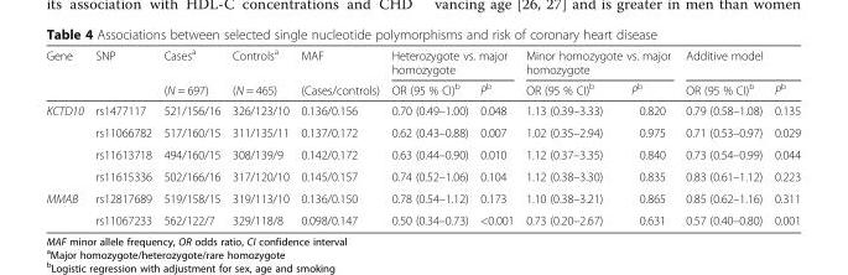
<table><thead><tr><td rowspan="2">Gene</td><td rowspan="2">SNP</td><td rowspan="2">Cases<sup>a</sup> (N = 697)</td><td rowspan="2">Controls<sup>a</sup> (N = 465)</td><td rowspan="2">MAF (Cases/controls)</td><td colspan="2">Heterozygote vs. major homozygote</td><td colspan="2">Minor homozygote vs. major homozygote</td><td colspan="2">Additive model</td></tr><tr><td>OR (95 % CI)<sup>b</sup></td><td>P<sup>b</sup></td><td>OR (95 % CI)<sup>b</sup></td><td>P<sup>b</sup></td><td>OR (95 % CI)<sup>b</sup></td><td>P<sup>b</sup></td></tr></thead><tbody><tr><td rowspan="4">KCTD10</td><td>rs1477117</td><td>521/156/16</td><td>326/123/10</td><td>0.136/0.156</td><td>0.70 (0.49–1.00)</td><td>0.048</td><td>1.13 (0.39–3.33)</td><td>0.820</td><td>0.79 (0.58–1.08)</td><td>0.135</td></tr><tr><td>rs11066782</td><td>517/160/15</td><td>311/135/11</td><td>0.137/0.172</td><td>0.62 (0.43–0.88)</td><td>0.007</td><td>1.02 (0.35–2.94)</td><td>0.975</td><td>0.71 (0.53–0.97)</td><td>0.029</td></tr><tr><td>rs11613718</td><td>494/160/15</td><td>308/139/9</td><td>0.142/0.172</td><td>0.63 (0.44–0.90)</td><td>0.010</td><td>1.12 (0.37–3.35)</td><td>0.840</td><td>0.73 (0.54–0.99)</td><td>0.044</td></tr><tr><td>rs11615336</td><td>502/166/16</td><td>317/120/10</td><td>0.145/0.157</td><td>0.74 (0.52–1.06)</td><td>0.104</td><td>1.12 (0.38–3.30)</td><td>0.835</td><td>0.83 (0.61–1.12)</td><td>0.223</td></tr><tr><td rowspan="2">MMAB</td><td>rs12817689</td><td>519/158/15</td><td>319/113/10</td><td>0.136/0.150</td><td>0.78 (0.54–1.12)</td><td>0.173</td><td>1.10 (0.38–3.21)</td><td>0.865</td><td>0.85 (0.62–1.16)</td><td>0.311</td></tr><tr><td>rs11067233</td><td>562/122/7</td><td>329/118/8</td><td>0.098/0.147</td><td>0.50 (0.34–0.73)</td><td>&lt;0.001</td><td>0.73 (0.20–2.67)</td><td>0.631</td><td>0.57 (0.40–0.80)</td><td>0.001</td></tr></tbody></table>